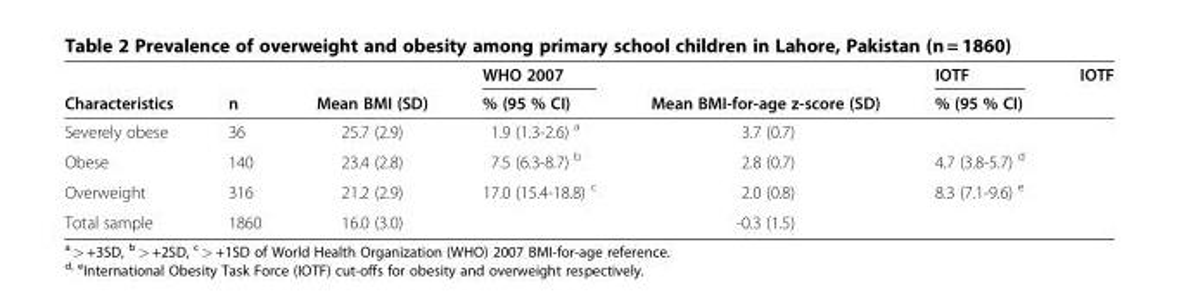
<table><thead><tr><td rowspan="2">Characteristics</td><td rowspan="2">n</td><td rowspan="2">Mean BMI (SD)</td><td rowspan="2">WHO 2007 % (95 % CI)</td><td rowspan="2">Mean BMI-for-age z-score (SD)</td><td rowspan="2">IOTF % (95 % CI)</td><td rowspan="2">IOTF</td></tr><tr></tr></thead><tbody><tr><td>Severely obese</td><td>36</td><td>25.7 (2.9)</td><td>1.9 (1.3-2.6) <sup>a</sup></td><td>3.7 (0.7)</td><td></td><td></td></tr><tr><td>Obese</td><td>140</td><td>23.4 (2.8)</td><td>7.5 (6.3-8.7) <sup>b</sup></td><td>2.8 (0.7)</td><td>4.7 (3.8-5.7) <sup>d</sup></td><td></td></tr><tr><td>Overweight</td><td>316</td><td>21.2 (2.9)</td><td>17.0 (15.4-18.8) <sup>c</sup></td><td>2.0 (0.8)</td><td>8.3 (7.1-9.6) <sup>e</sup></td><td></td></tr><tr><td>Total sample</td><td>1860</td><td>16.0 (3.0)</td><td></td><td>-0.3 (1.5)</td><td></td><td></td></tr></tbody></table>